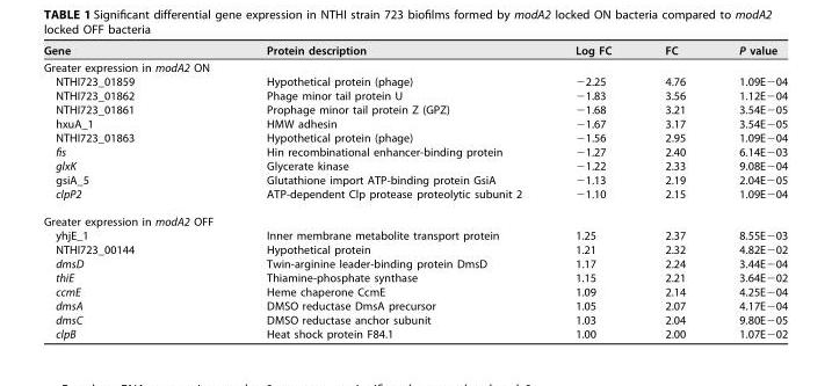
<table><thead><tr><td>Gene</td><td>Protein description</td><td>Log FC</td><td>FC</td><td>P value</td></tr></thead><tbody><tr><td colspan="5">Greater expression in modA2 ON</td></tr><tr><td>NTHI723_01859</td><td>Hypothetical protein (phage)</td><td>−2.25</td><td>4.76</td><td>1.09E−04</td></tr><tr><td>NTHI723_01862</td><td>Phage minor tail protein U</td><td>−1.83</td><td>3.56</td><td>1.12E−04</td></tr><tr><td>NTHI723_01861</td><td>Prophage minor tail protein Z (GPZ)</td><td>−1.68</td><td>3.21</td><td>3.54E−05</td></tr><tr><td>hxuA_1</td><td>HMW adhesin</td><td>−1.67</td><td>3.17</td><td>3.54E−05</td></tr><tr><td>NTHI723_01863</td><td>Hypothetical protein (phage)</td><td>−1.56</td><td>2.95</td><td>1.09E−04</td></tr><tr><td>fis</td><td>Hin recombinational enhancer-binding protein</td><td>−1.27</td><td>2.40</td><td>6.14E−03</td></tr><tr><td>glxK</td><td>Glycerate kinase</td><td>−1.22</td><td>2.33</td><td>9.08E−04</td></tr><tr><td>gsiA_5</td><td>Glutathione import ATP-binding protein GsiA</td><td>−1.13</td><td>2.19</td><td>2.04E−05</td></tr><tr><td>clpP2</td><td>ATP-dependent Clp protease proteolytic subunit 2</td><td>−1.10</td><td>2.15</td><td>1.09E−04</td></tr><tr><td colspan="5">Greater expression in modA2 OFF</td></tr><tr><td>yhjE_1</td><td>Inner membrane metabolite transport protein</td><td>1.25</td><td>2.37</td><td>8.55E−03</td></tr><tr><td>NTHI723_00144</td><td>Hypothetical protein</td><td>1.21</td><td>2.32</td><td>4.82E−02</td></tr><tr><td>dmsD</td><td>Twin-arginine leader-binding protein DmsD</td><td>1.17</td><td>2.24</td><td>3.44E−04</td></tr><tr><td>thiE</td><td>Thiamine-phosphate synthase</td><td>1.15</td><td>2.21</td><td>3.64E−02</td></tr><tr><td>ccmE</td><td>Heme chaperone CcmE</td><td>1.09</td><td>2.14</td><td>4.25E−04</td></tr><tr><td>dmsA</td><td>DMSO reductase DmsA precursor</td><td>1.05</td><td>2.07</td><td>4.17E−04</td></tr><tr><td>dmsC</td><td>DMSO reductase anchor subunit</td><td>1.03</td><td>2.04</td><td>9.80E−05</td></tr><tr><td>clpB</td><td>Heat shock protein F84.1</td><td>1.00</td><td>2.00</td><td>1.07E−02</td></tr></tbody></table>